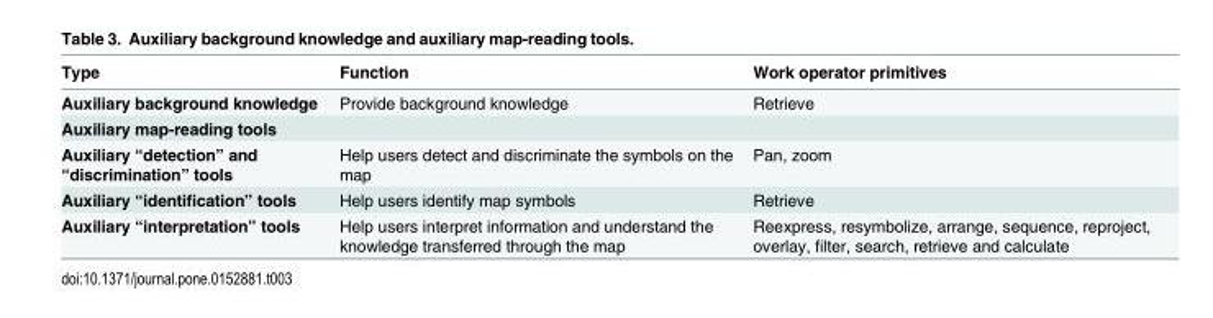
<table><thead><tr><td>Type</td><td>Function</td><td>Work operator primitives</td></tr></thead><tbody><tr><td>Auxiliary background knowledge</td><td>Provide background knowledge</td><td>Retrieve</td></tr><tr><td colspan="3">Auxiliary map-reading tools</td></tr><tr><td>Auxiliary “detection” and “discrimination” tools</td><td>Help users detect and discriminate the symbols on the map</td><td>Pan, zoom</td></tr><tr><td>Auxiliary “identification” tools</td><td>Help users identify map symbols</td><td>Retrieve</td></tr><tr><td>Auxiliary “interpretation” tools</td><td>Help users interpret information and understand the knowledge transferred through the map</td><td>Reexpress, resymbolize, arrange, sequence, reproject, overlay, filter, search, retrieve and calculate</td></tr></tbody></table>